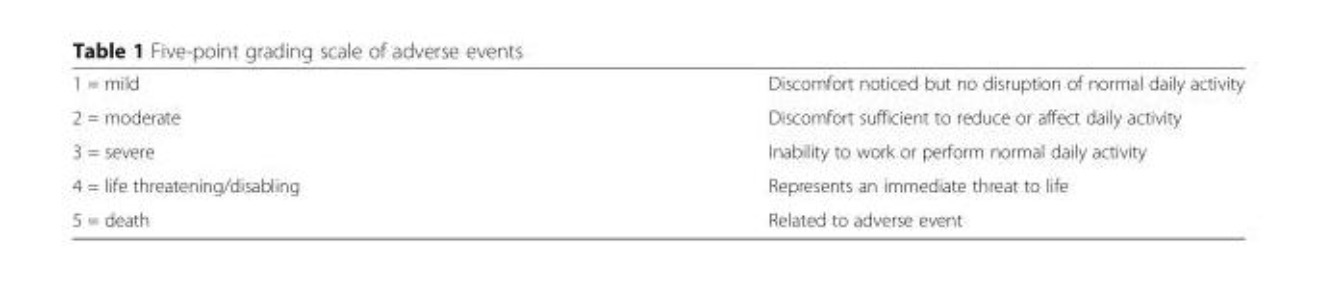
<table><tbody><tr><td>1 = mild</td><td>Discomfort noticed but no disruption of normal daily activity</td></tr><tr><td>2 = moderate</td><td>Discomfort sufficient to reduce or affect daily activity</td></tr><tr><td>3 = severe</td><td>Inability to work or perform normal daily activity</td></tr><tr><td>4 = life threatening/disabling</td><td>Represents an immediate threat to life</td></tr><tr><td>5 = death</td><td>Related to adverse event</td></tr></tbody></table>